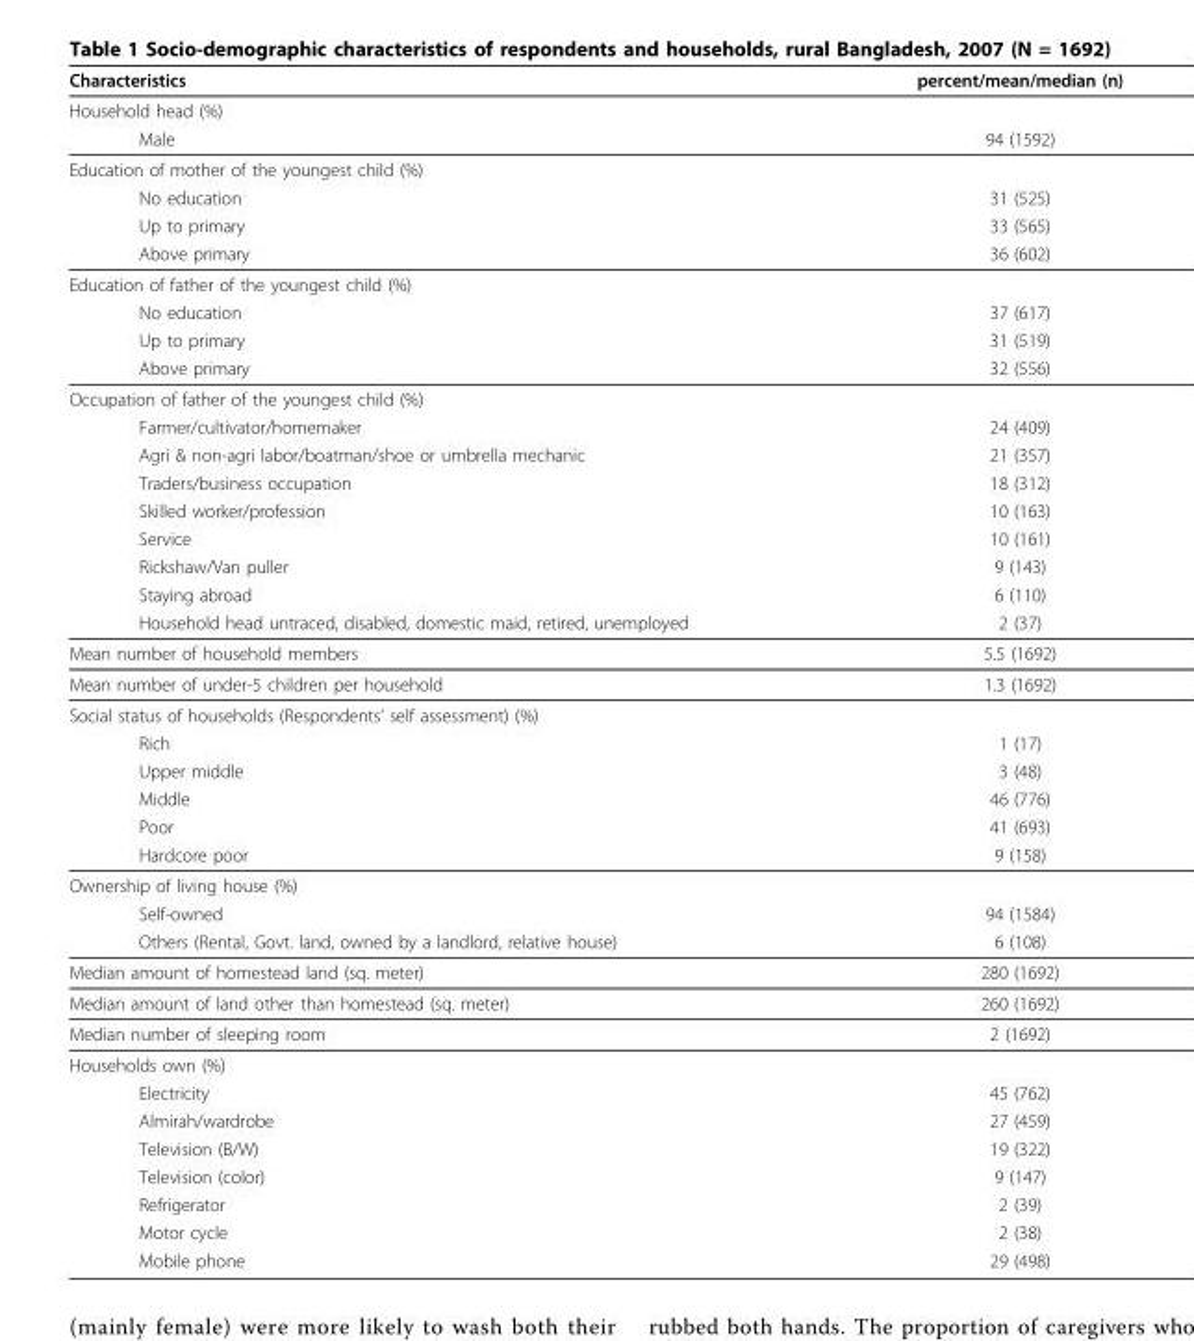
<table><thead><tr><td>Characteristics</td><td>percent/mean/median (n)</td></tr></thead><tbody><tr><td colspan="2">Household head (%)</td></tr><tr><td>Male</td><td>94 (1592)</td></tr><tr><td colspan="2">Education of mother of the youngest child (%)</td></tr><tr><td>No education</td><td>31 (525)</td></tr><tr><td>Up to primary</td><td>33 (565)</td></tr><tr><td>Above primary</td><td>36 (602)</td></tr><tr><td colspan="2">Education of father of the youngest child (%)</td></tr><tr><td>No education</td><td>37 (617)</td></tr><tr><td>Up to primary</td><td>31 (519)</td></tr><tr><td>Above primary</td><td>32 (556)</td></tr><tr><td colspan="2">Occupation of father of the youngest child (%)</td></tr><tr><td>Farmer/cultivator/homemaker</td><td>24 (409)</td></tr><tr><td>Agri &amp; non-agri labor/boatman/shoe or umbrella mechanic</td><td>21 (357)</td></tr><tr><td>Traders/business occupation</td><td>18 (312)</td></tr><tr><td>Skilled worker/profession</td><td>10 (163)</td></tr><tr><td>Service</td><td>10 (161)</td></tr><tr><td>Rickshaw/Van puller</td><td>9 (143)</td></tr><tr><td>Staying abroad</td><td>6 (110)</td></tr><tr><td>Household head untraced, disabled, domestic maid, retired, unemployed</td><td>2 (37)</td></tr><tr><td>Mean number of household members</td><td>5.5 (1692)</td></tr><tr><td>Mean number of under-5 children per household</td><td>1.3 (1692)</td></tr><tr><td colspan="2">Social status of households (Respondents’ self assessment) (%)</td></tr><tr><td>Rich</td><td>1 (17)</td></tr><tr><td>Upper middle</td><td>3 (48)</td></tr><tr><td>Middle</td><td>46 (776)</td></tr><tr><td>Poor</td><td>41 (693)</td></tr><tr><td>Hardcore poor</td><td>9 (158)</td></tr><tr><td colspan="2">Ownership of living house (%)</td></tr><tr><td>Self-owned</td><td>94 (1584)</td></tr><tr><td>Others (Rental, Govt. land, owned by a landlord, relative house)</td><td>6 (108)</td></tr><tr><td>Median amount of homestead land (sq. meter)</td><td>280 (1692)</td></tr><tr><td>Median amount of land other than homestead (sq. meter)</td><td>260 (1692)</td></tr><tr><td>Median number of sleeping room</td><td>2 (1692)</td></tr><tr><td colspan="2">Households own (%)</td></tr><tr><td>Electricity</td><td>45 (762)</td></tr><tr><td>Almirah/wardrobe</td><td>27 (459)</td></tr><tr><td>Television (B/W)</td><td>19 (322)</td></tr><tr><td>Television (color)</td><td>9 (147)</td></tr><tr><td>Refrigerator</td><td>2 (39)</td></tr><tr><td>Motor cycle</td><td>2 (38)</td></tr><tr><td>Mobile phone</td><td>29 (498)</td></tr></tbody></table>